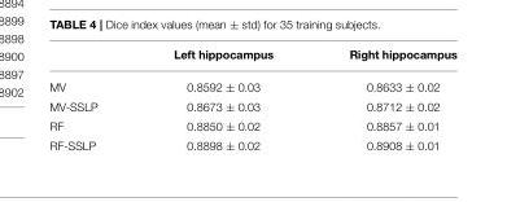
<table><thead><tr><td></td><td>Left hippocampus</td><td>Right hippocampus</td></tr></thead><tbody><tr><td>MV</td><td>0.8592 ± 0.03</td><td>0.8633 ± 0.02</td></tr><tr><td>MV-SSLP</td><td>0.8673 ± 0.03</td><td>0.8712 ± 0.02</td></tr><tr><td>RF</td><td>0.8850 ± 0.02</td><td>0.8857 ± 0.01</td></tr><tr><td>RF-SSLP</td><td>0.8898 ± 0.02</td><td>0.8908 ± 0.01</td></tr></tbody></table>